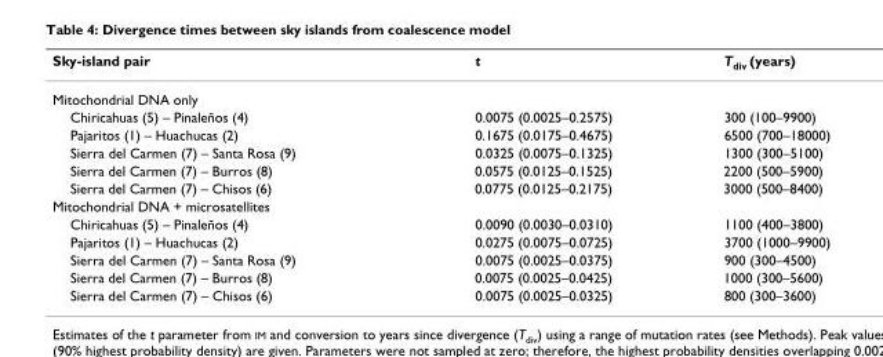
<table><thead><tr><td>Sky-island pair</td><td>t</td><td>T<sub>div</sub> (years)</td></tr></thead><tbody><tr><td colspan="3">Mitochondrial DNA only</td></tr><tr><td>Chiricahuas (5) – Pinaleños (4)</td><td>0.0075 (0.0025–0.2575)</td><td>300 (100–9900)</td></tr><tr><td>Pajaritos (1) – Huachucas (2)</td><td>0.1675 (0.0175–0.4675)</td><td>6500 (700–18000)</td></tr><tr><td>Sierra del Carmen (7) – Santa Rosa (9)</td><td>0.0325 (0.0075–0.1325)</td><td>1300 (300–5100)</td></tr><tr><td>Sierra del Carmen (7) – Burros (8)</td><td>0.0575 (0.0125–0.1525)</td><td>2200 (500–5900)</td></tr><tr><td>Sierra del Carmen (7) – Chisos (6)</td><td>0.0775 (0.0125–0.2175)</td><td>3000 (500–8400)</td></tr><tr><td colspan="3">Mitochondrial DNA + microsatellites</td></tr><tr><td>Chiricahuas (5) – Pinaleños (4)</td><td>0.0090 (0.0030–0.0310)</td><td>1100 (400–3800)</td></tr><tr><td>Pajaritos (1) – Huachucas (2)</td><td>0.0275 (0.0075–0.0725)</td><td>3700 (1000–9900)</td></tr><tr><td>Sierra del Carmen (7) – Santa Rosa (9)</td><td>0.0075 (0.0025–0.0375)</td><td>900 (300–4500)</td></tr><tr><td>Sierra del Carmen (7) – Burros (8)</td><td>0.0075 (0.0025–0.0425)</td><td>1000 (300–5600)</td></tr><tr><td>Sierra del Carmen (7) – Chisos (6)</td><td>0.0075 (0.0025–0.0325)</td><td>800 (300–3600)</td></tr></tbody></table>